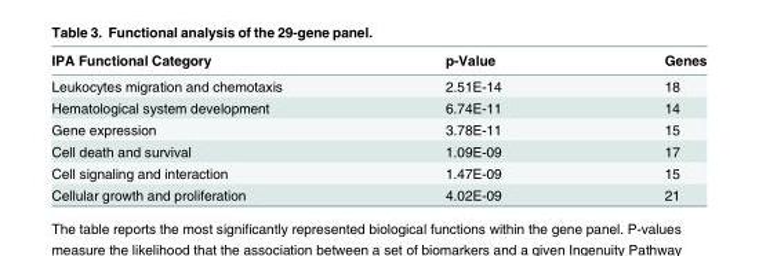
<table><thead><tr><td>IPA Functional Category</td><td>p-Value</td><td>Genes</td></tr></thead><tbody><tr><td>Leukocytes migration and chemotaxis</td><td>2.51E-14</td><td>18</td></tr><tr><td>Hematological system development</td><td>6.74E-11</td><td>14</td></tr><tr><td>Gene expression</td><td>3.78E-11</td><td>15</td></tr><tr><td>Cell death and survival</td><td>1.09E-09</td><td>17</td></tr><tr><td>Cell signaling and interaction</td><td>1.47E-09</td><td>15</td></tr><tr><td>Cellular growth and proliferation</td><td>4.02E-09</td><td>21</td></tr></tbody></table>